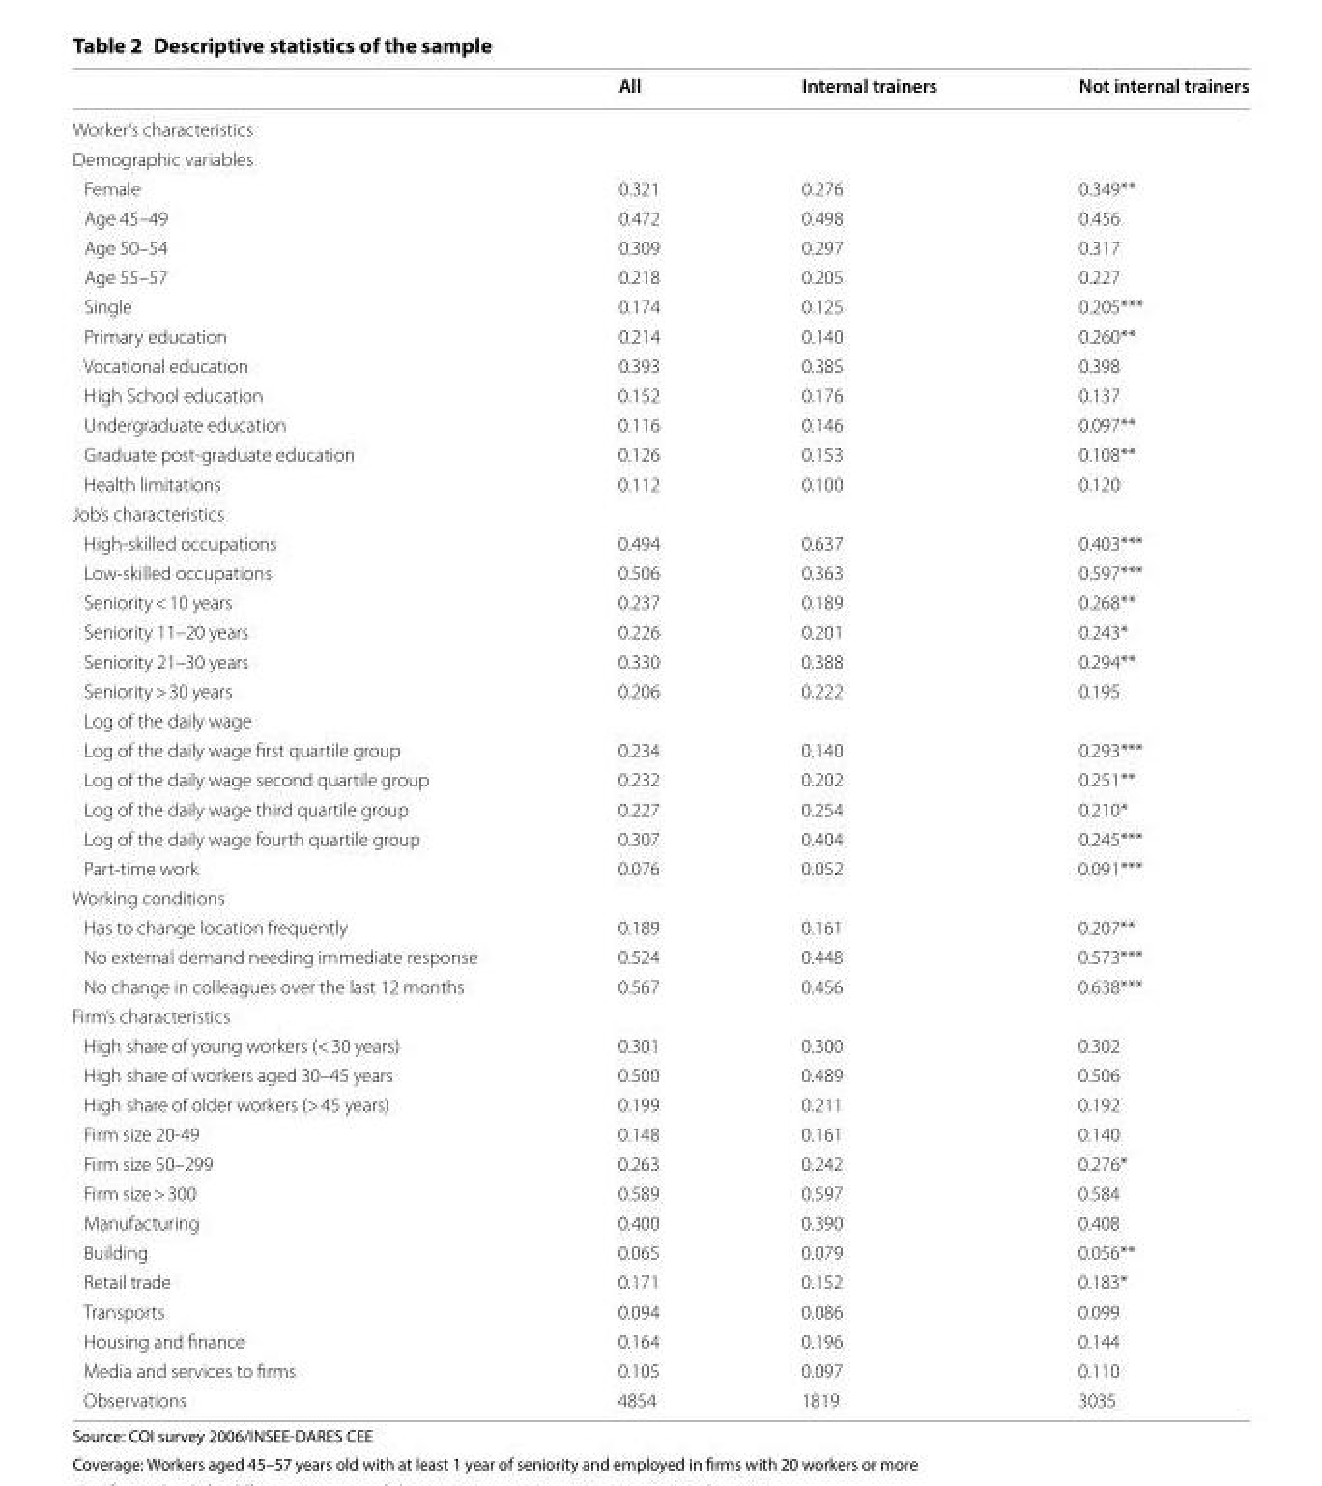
<table><thead><tr><td></td><td>All</td><td>Internal trainers</td><td>Not internal trainers</td></tr></thead><tbody><tr><td colspan="4">Worker’s characteristics</td></tr><tr><td colspan="4">Demographic variables</td></tr><tr><td>Female</td><td>0.321</td><td>0.276</td><td>0.349**</td></tr><tr><td>Age 45–49</td><td>0.472</td><td>0.498</td><td>0.456</td></tr><tr><td>Age 50–54</td><td>0.309</td><td>0.297</td><td>0.317</td></tr><tr><td>Age 55–57</td><td>0.218</td><td>0.205</td><td>0.227</td></tr><tr><td>Single</td><td>0.174</td><td>0.125</td><td>0.205***</td></tr><tr><td>Primary education</td><td>0.214</td><td>0.140</td><td>0.260**</td></tr><tr><td>Vocational education</td><td>0.393</td><td>0.385</td><td>0.398</td></tr><tr><td>High School education</td><td>0.152</td><td>0.176</td><td>0.137</td></tr><tr><td>Undergraduate education</td><td>0.116</td><td>0.146</td><td>0.097**</td></tr><tr><td>Graduate post‑graduate education</td><td>0.126</td><td>0.153</td><td>0.108**</td></tr><tr><td>Health limitations</td><td>0.112</td><td>0.100</td><td>0.120</td></tr><tr><td colspan="4">Job’s characteristics</td></tr><tr><td>High‑skilled occupations</td><td>0.494</td><td>0.637</td><td>0.403***</td></tr><tr><td>Low‑skilled occupations</td><td>0.506</td><td>0.363</td><td>0.597***</td></tr><tr><td>Seniority &lt; 10 years</td><td>0.237</td><td>0.189</td><td>0.268**</td></tr><tr><td>Seniority 11–20 years</td><td>0.226</td><td>0.201</td><td>0.243*</td></tr><tr><td>Seniority 21–30 years</td><td>0.330</td><td>0.388</td><td>0.294**</td></tr><tr><td>Seniority &gt; 30 years</td><td>0.206</td><td>0.222</td><td>0.195</td></tr><tr><td colspan="4">Log of the daily wage</td></tr><tr><td>Log of the daily wage first quartile group</td><td>0.234</td><td>0.140</td><td>0.293***</td></tr><tr><td>Log of the daily wage second quartile group</td><td>0.232</td><td>0.202</td><td>0.251**</td></tr><tr><td>Log of the daily wage third quartile group</td><td>0.227</td><td>0.254</td><td>0.210*</td></tr><tr><td>Log of the daily wage fourth quartile group</td><td>0.307</td><td>0.404</td><td>0.245***</td></tr><tr><td>Part‑time work</td><td>0.076</td><td>0.052</td><td>0.091***</td></tr><tr><td colspan="4">Working conditions</td></tr><tr><td>Has to change location frequently</td><td>0.189</td><td>0.161</td><td>0.207**</td></tr><tr><td>No external demand needing immediate response</td><td>0.524</td><td>0.448</td><td>0.573***</td></tr><tr><td>No change in colleagues over the last 12 months</td><td>0.567</td><td>0.456</td><td>0.638***</td></tr><tr><td colspan="4">Firm’s characteristics</td></tr><tr><td>High share of young workers (&lt; 30 years)</td><td>0.301</td><td>0.300</td><td>0.302</td></tr><tr><td>High share of workers aged 30–45 years</td><td>0.500</td><td>0.489</td><td>0.506</td></tr><tr><td>High share of older workers (&gt; 45 years)</td><td>0.199</td><td>0.211</td><td>0.192</td></tr><tr><td>Firm size 20‑49</td><td>0.148</td><td>0.161</td><td>0.140</td></tr><tr><td>Firm size 50–299</td><td>0.263</td><td>0.242</td><td>0.276*</td></tr><tr><td>Firm size &gt; 300</td><td>0.589</td><td>0.597</td><td>0.584</td></tr><tr><td>Manufacturing</td><td>0.400</td><td>0.390</td><td>0.408</td></tr><tr><td>Building</td><td>0.065</td><td>0.079</td><td>0.056**</td></tr><tr><td>Retail trade</td><td>0.171</td><td>0.152</td><td>0.183*</td></tr><tr><td>Transports</td><td>0.094</td><td>0.086</td><td>0.099</td></tr><tr><td>Housing and finance</td><td>0.164</td><td>0.196</td><td>0.144</td></tr><tr><td>Media and services to firms</td><td>0.105</td><td>0.097</td><td>0.110</td></tr><tr><td>Observations</td><td>4854</td><td>1819</td><td>3035</td></tr></tbody></table>